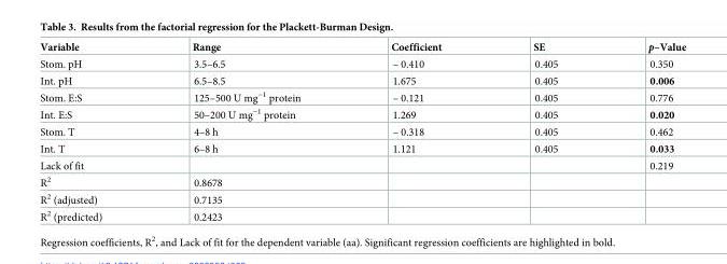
<table><thead><tr><td>Variable</td><td>Range</td><td>Coefficient</td><td>SE</td><td>p–Value</td></tr></thead><tbody><tr><td>Stom. pH</td><td>3.5–6.5</td><td>– 0.410</td><td>0.405</td><td>0.350</td></tr><tr><td>Int. pH</td><td>6.5–8.5</td><td>1.675</td><td>0.405</td><td>0.006</td></tr><tr><td>Stom. E:S</td><td>125–500 U mg<sup>−1</sup> protein</td><td>– 0.121</td><td>0.405</td><td>0.776</td></tr><tr><td>Int. E:S</td><td>50–200 U mg<sup>−1</sup> protein</td><td>1.269</td><td>0.405</td><td>0.020</td></tr><tr><td>Stom. T</td><td>4–8 h</td><td>– 0.318</td><td>0.405</td><td>0.462</td></tr><tr><td>Int. T</td><td>6–8 h</td><td>1.121</td><td>0.405</td><td>0.033</td></tr><tr><td>Lack of fit</td><td></td><td></td><td></td><td>0.219</td></tr><tr><td>R<sup>2</sup></td><td>0.8678</td><td></td><td></td><td></td></tr><tr><td>R<sup>2</sup> (adjusted)</td><td>0.7135</td><td></td><td></td><td></td></tr><tr><td>R<sup>2</sup> (predicted)</td><td>0.2423</td><td></td><td></td><td></td></tr></tbody></table>